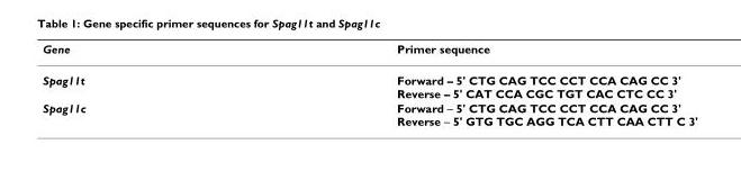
<table><thead><tr><td>Gene</td><td>Primer sequence</td></tr></thead><tbody><tr><td>Spag11t</td><td>Forward – 5&#x27; CTG CAG TCC CCT CCA CAG CC 3&#x27; Reverse – 5&#x27; CAT CCA CGC TGT CAC CTC CC 3&#x27;</td></tr><tr><td>Spag11c</td><td>Forward – 5&#x27; CTG CAG TCC CCT CCA CAG CC 3&#x27; Reverse – 5&#x27; GTG TGC AGG TCA CTT CAA CTT C 3&#x27;</td></tr></tbody></table>